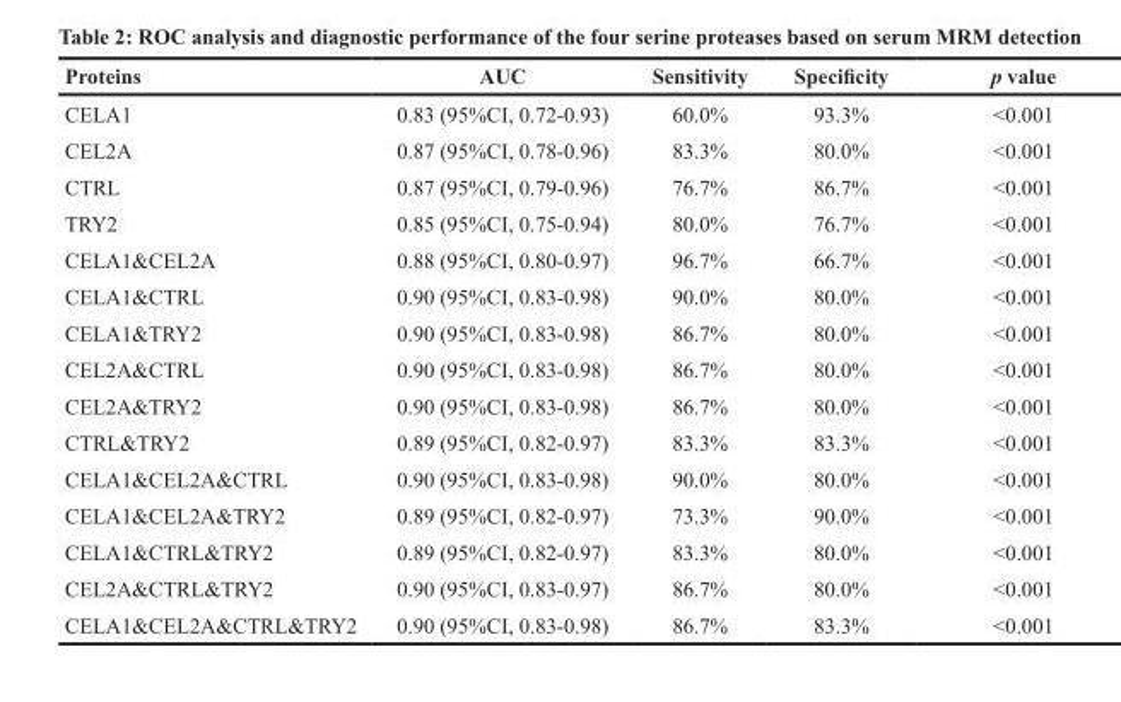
<table><thead><tr><td>Proteins</td><td>AUC</td><td>Sensitivity</td><td>Specificity</td><td>p value</td></tr></thead><tbody><tr><td>CELA1</td><td>0.83 (95%CI, 0.72-0.93)</td><td>60.0%</td><td>93.3%</td><td>&lt;0.001</td></tr><tr><td>CEL2A</td><td>0.87 (95%CI, 0.78-0.96)</td><td>83.3%</td><td>80.0%</td><td>&lt;0.001</td></tr><tr><td>CTRL</td><td>0.87 (95%CI, 0.79-0.96)</td><td>76.7%</td><td>86.7%</td><td>&lt;0.001</td></tr><tr><td>TRY2</td><td>0.85 (95%CI, 0.75-0.94)</td><td>80.0%</td><td>76.7%</td><td>&lt;0.001</td></tr><tr><td>CELA1&amp;CEL2A</td><td>0.88 (95%CI, 0.80-0.97)</td><td>96.7%</td><td>66.7%</td><td>&lt;0.001</td></tr><tr><td>CELA1&amp;CTRL</td><td>0.90 (95%CI, 0.83-0.98)</td><td>90.0%</td><td>80.0%</td><td>&lt;0.001</td></tr><tr><td>CELA1&amp;TRY2</td><td>0.90 (95%CI, 0.83-0.98)</td><td>86.7%</td><td>80.0%</td><td>&lt;0.001</td></tr><tr><td>CEL2A&amp;CTRL</td><td>0.90 (95%CI, 0.83-0.98)</td><td>86.7%</td><td>80.0%</td><td>&lt;0.001</td></tr><tr><td>CEL2A&amp;TRY2</td><td>0.90 (95%CI, 0.83-0.98)</td><td>86.7%</td><td>80.0%</td><td>&lt;0.001</td></tr><tr><td>CTRL&amp;TRY2</td><td>0.89 (95%CI, 0.82-0.97)</td><td>83.3%</td><td>83.3%</td><td>&lt;0.001</td></tr><tr><td>CELA1&amp;CEL2A&amp;CTRL</td><td>0.90 (95%CI, 0.83-0.98)</td><td>90.0%</td><td>80.0%</td><td>&lt;0.001</td></tr><tr><td>CELA1&amp;CEL2A&amp;TRY2</td><td>0.89 (95%CI, 0.82-0.97)</td><td>73.3%</td><td>90.0%</td><td>&lt;0.001</td></tr><tr><td>CELA1&amp;CTRL&amp;TRY2</td><td>0.89 (95%CI, 0.82-0.97)</td><td>83.3%</td><td>80.0%</td><td>&lt;0.001</td></tr><tr><td>CEL2A&amp;CTRL&amp;TRY2</td><td>0.90 (95%CI, 0.83-0.97)</td><td>86.7%</td><td>80.0%</td><td>&lt;0.001</td></tr><tr><td>CELA1&amp;CEL2A&amp;CTRL&amp;TRY2</td><td>0.90 (95%CI, 0.83-0.98)</td><td>86.7%</td><td>83.3%</td><td>&lt;0.001</td></tr></tbody></table>